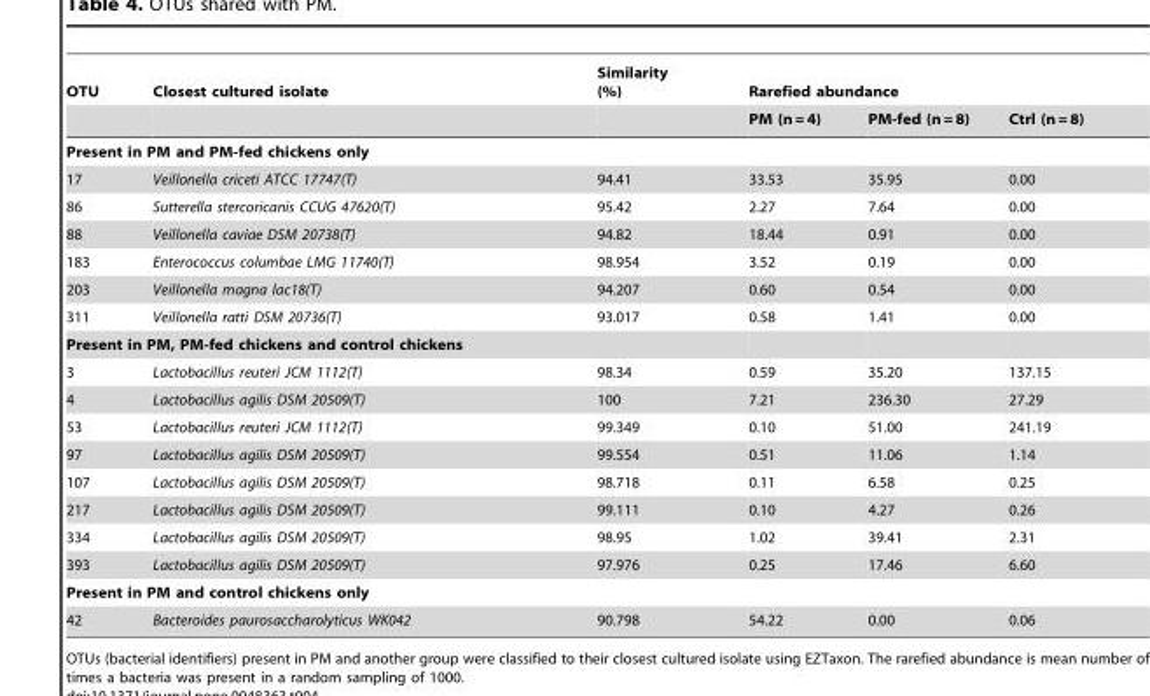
<table><thead><tr><td rowspan="2">OTU</td><td rowspan="2">Closest cultured isolate</td><td rowspan="2">Similarity (%)</td><td colspan="3">Rarefied abundance</td></tr><tr><td>PM (n = 4)</td><td>PM-fed (n = 8)</td><td>Ctrl (n = 8)</td></tr></thead><tbody><tr><td colspan="6">Present in PM and PM-fed chickens only</td></tr><tr><td>17</td><td>Veillonella criceti ATCC 17747(T)</td><td>94.41</td><td>33.53</td><td>35.95</td><td>0.00</td></tr><tr><td>86</td><td>Sutterella stercoricanis CCUG 47620(T)</td><td>95.42</td><td>2.27</td><td>7.64</td><td>0.00</td></tr><tr><td>88</td><td>Veillonella caviae DSM 20738(T)</td><td>94.82</td><td>18.44</td><td>0.91</td><td>0.00</td></tr><tr><td>183</td><td>Enterococcus columbae LMG 11740(T)</td><td>98.954</td><td>3.52</td><td>0.19</td><td>0.00</td></tr><tr><td>203</td><td>Veillonella magna lac18(T)</td><td>94.207</td><td>0.60</td><td>0.54</td><td>0.00</td></tr><tr><td>311</td><td>Veillonella ratti DSM 20736(T)</td><td>93.017</td><td>0.58</td><td>1.41</td><td>0.00</td></tr><tr><td colspan="6">Present in PM, PM-fed chickens and control chickens</td></tr><tr><td>3</td><td>Lactobacillus reuteri JCM 1112(T)</td><td>98.34</td><td>0.59</td><td>35.20</td><td>137.15</td></tr><tr><td>4</td><td>Lactobacillus agilis DSM 20509(T)</td><td>100</td><td>7.21</td><td>236.30</td><td>27.29</td></tr><tr><td>53</td><td>Lactobacillus reuteri JCM 1112(T)</td><td>99.349</td><td>0.10</td><td>51.00</td><td>241.19</td></tr><tr><td>97</td><td>Lactobacillus agilis DSM 20509(T)</td><td>99.554</td><td>0.51</td><td>11.06</td><td>1.14</td></tr><tr><td>107</td><td>Lactobacillus agilis DSM 20509(T)</td><td>98.718</td><td>0.11</td><td>6.58</td><td>0.25</td></tr><tr><td>217</td><td>Lactobacillus agilis DSM 20509(T)</td><td>99.111</td><td>0.10</td><td>4.27</td><td>0.26</td></tr><tr><td>334</td><td>Lactobacillus agilis DSM 20509(T)</td><td>98.95</td><td>1.02</td><td>39.41</td><td>2.31</td></tr><tr><td>393</td><td>Lactobacillus agilis DSM 20509(T)</td><td>97.976</td><td>0.25</td><td>17.46</td><td>6.60</td></tr><tr><td colspan="6">Present in PM and control chickens only</td></tr><tr><td>42</td><td>Bacteroides paurosaccharolyticus WK042</td><td>90.798</td><td>54.22</td><td>0.00</td><td>0.06</td></tr></tbody></table>